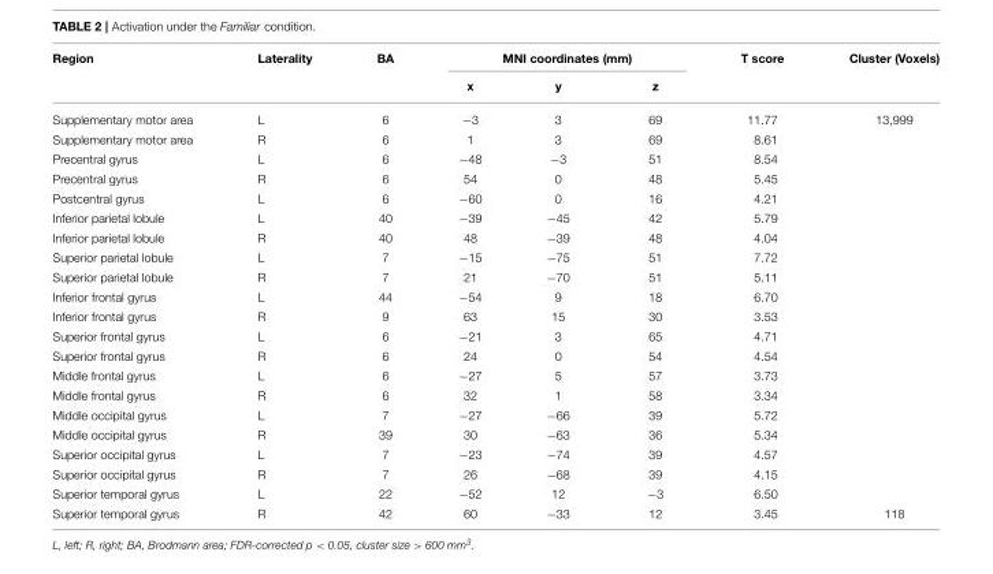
<table><thead><tr><td rowspan="2">Region</td><td rowspan="2">Laterality</td><td rowspan="2">BA</td><td colspan="3">MNI coordinates (mm)</td><td rowspan="2">T score</td><td rowspan="2">Cluster (Voxels)</td></tr><tr><td>x</td><td>y</td><td>z</td></tr></thead><tbody><tr><td>Supplementary motor area</td><td>L</td><td>6</td><td>−3</td><td>3</td><td>69</td><td>11.77</td><td>13,999</td></tr><tr><td>Supplementary motor area</td><td>R</td><td>6</td><td>1</td><td>3</td><td>69</td><td>8.61</td><td></td></tr><tr><td>Precentral gyrus</td><td>L</td><td>6</td><td>−48</td><td>−3</td><td>51</td><td>8.54</td><td></td></tr><tr><td>Precentral gyrus</td><td>R</td><td>6</td><td>54</td><td>0</td><td>48</td><td>5.45</td><td></td></tr><tr><td>Postcentral gyrus</td><td>L</td><td>6</td><td>−60</td><td>0</td><td>16</td><td>4.21</td><td></td></tr><tr><td>Inferior parietal lobule</td><td>L</td><td>40</td><td>−39</td><td>−45</td><td>42</td><td>5.79</td><td></td></tr><tr><td>Inferior parietal lobule</td><td>R</td><td>40</td><td>48</td><td>−39</td><td>48</td><td>4.04</td><td></td></tr><tr><td>Superior parietal lobule</td><td>L</td><td>7</td><td>−15</td><td>−75</td><td>51</td><td>7.72</td><td></td></tr><tr><td>Superior parietal lobule</td><td>R</td><td>7</td><td>21</td><td>−70</td><td>51</td><td>5.11</td><td></td></tr><tr><td>Inferior frontal gyrus</td><td>L</td><td>44</td><td>−54</td><td>9</td><td>18</td><td>6.70</td><td></td></tr><tr><td>Inferior frontal gyrus</td><td>R</td><td>9</td><td>63</td><td>15</td><td>30</td><td>3.53</td><td></td></tr><tr><td>Superior frontal gyrus</td><td>L</td><td>6</td><td>−21</td><td>3</td><td>65</td><td>4.71</td><td></td></tr><tr><td>Superior frontal gyrus</td><td>R</td><td>6</td><td>24</td><td>0</td><td>54</td><td>4.54</td><td></td></tr><tr><td>Middle frontal gyrus</td><td>L</td><td>6</td><td>−27</td><td>5</td><td>57</td><td>3.73</td><td></td></tr><tr><td>Middle frontal gyrus</td><td>R</td><td>6</td><td>32</td><td>1</td><td>58</td><td>3.34</td><td></td></tr><tr><td>Middle occipital gyrus</td><td>L</td><td>7</td><td>−27</td><td>−66</td><td>39</td><td>5.72</td><td></td></tr><tr><td>Middle occipital gyrus</td><td>R</td><td>39</td><td>30</td><td>−63</td><td>36</td><td>5.34</td><td></td></tr><tr><td>Superior occipital gyrus</td><td>L</td><td>7</td><td>−23</td><td>−74</td><td>39</td><td>4.57</td><td></td></tr><tr><td>Superior occipital gyrus</td><td>R</td><td>7</td><td>26</td><td>−68</td><td>39</td><td>4.15</td><td></td></tr><tr><td>Superior temporal gyrus</td><td>L</td><td>22</td><td>−52</td><td>12</td><td>−3</td><td>6.50</td><td></td></tr><tr><td>Superior temporal gyrus</td><td>R</td><td>42</td><td>60</td><td>−33</td><td>12</td><td>3.45</td><td>118</td></tr></tbody></table>